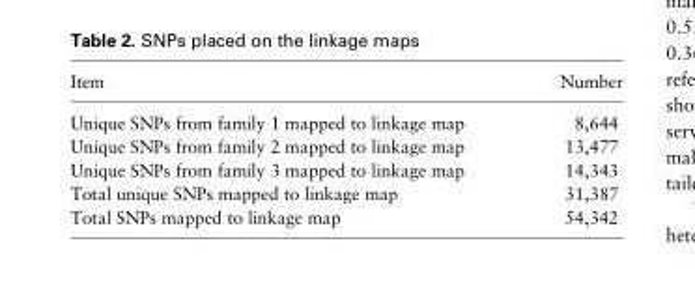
<table><thead><tr><td>Item</td><td>Number</td></tr></thead><tbody><tr><td>Unique SNPs from family 1 mapped to linkage map</td><td>8,644</td></tr><tr><td>Unique SNPs from family 2 mapped to linkage map</td><td>13,477</td></tr><tr><td>Unique SNPs from family 3 mapped to linkage map</td><td>14,343</td></tr><tr><td>Total unique SNPs mapped to linkage map</td><td>31,387</td></tr><tr><td>Total SNPs mapped to linkage map</td><td>54,342</td></tr></tbody></table>